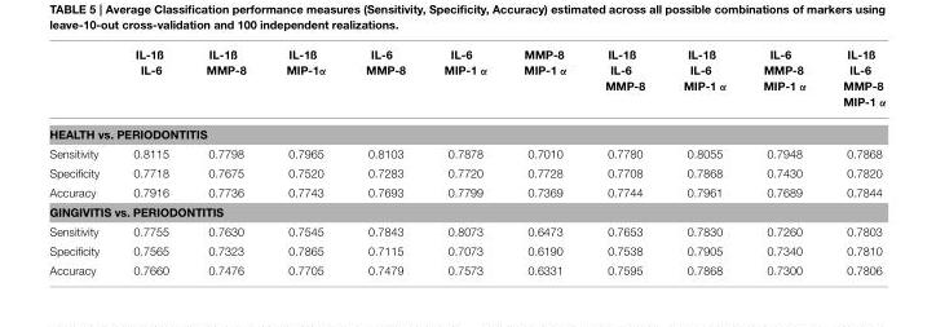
<table><thead><tr><td></td><td>IL-1ß IL-6</td><td>IL-1ß MMP-8</td><td>IL-1ß MIP-1α</td><td>IL-6 MMP-8</td><td>IL-6 MIP-1 α</td><td>MMP-8 MIP-1 α</td><td>IL-1ß IL-6 MMP-8</td><td>IL-1ß IL-6 MIP-1 α</td><td>IL-6 MMP-8 MIP-1 α</td><td>IL-1ß IL-6 MMP-8 MIP-1 α</td></tr></thead><tbody><tr><td colspan="11">HEALTH vs. PERIODONTITIS</td></tr><tr><td>Sensitivity</td><td>0.8115</td><td>0.7798</td><td>0.7965</td><td>0.8103</td><td>0.7878</td><td>0.7010</td><td>0.7780</td><td>0.8055</td><td>0.7948</td><td>0.7868</td></tr><tr><td>Specificity</td><td>0.7718</td><td>0.7675</td><td>0.7520</td><td>0.7283</td><td>0.7720</td><td>0.7728</td><td>0.7708</td><td>0.7868</td><td>0.7430</td><td>0.7820</td></tr><tr><td>Accuracy</td><td>0.7916</td><td>0.7736</td><td>0.7743</td><td>0.7693</td><td>0.7799</td><td>0.7369</td><td>0.7744</td><td>0.7961</td><td>0.7689</td><td>0.7844</td></tr><tr><td colspan="11">GINGIVITIS vs. PERIODONTITIS</td></tr><tr><td>Sensitivity</td><td>0.7755</td><td>0.7630</td><td>0.7545</td><td>0.7843</td><td>0.8073</td><td>0.6473</td><td>0.7653</td><td>0.7830</td><td>0.7260</td><td>0.7803</td></tr><tr><td>Specificity</td><td>0.7565</td><td>0.7323</td><td>0.7865</td><td>0.7115</td><td>0.7073</td><td>0.6190</td><td>0.7538</td><td>0.7905</td><td>0.7340</td><td>0.7810</td></tr><tr><td>Accuracy</td><td>0.7660</td><td>0.7476</td><td>0.7705</td><td>0.7479</td><td>0.7573</td><td>0.6331</td><td>0.7595</td><td>0.7868</td><td>0.7300</td><td>0.7806</td></tr></tbody></table>